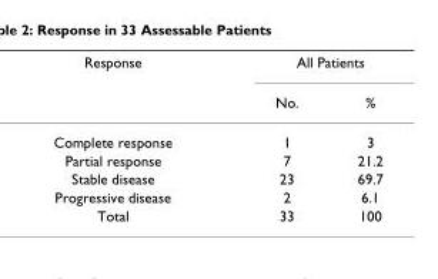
<table><thead><tr><td rowspan="2">Response</td><td colspan="2">All Patients</td></tr><tr><td>No.</td><td>%</td></tr></thead><tbody><tr><td>Complete response</td><td>1</td><td>3</td></tr><tr><td>Partial response</td><td>7</td><td>21.2</td></tr><tr><td>Stable disease</td><td>23</td><td>69.7</td></tr><tr><td>Progressive disease</td><td>2</td><td>6.1</td></tr><tr><td>Total</td><td>33</td><td>100</td></tr></tbody></table>